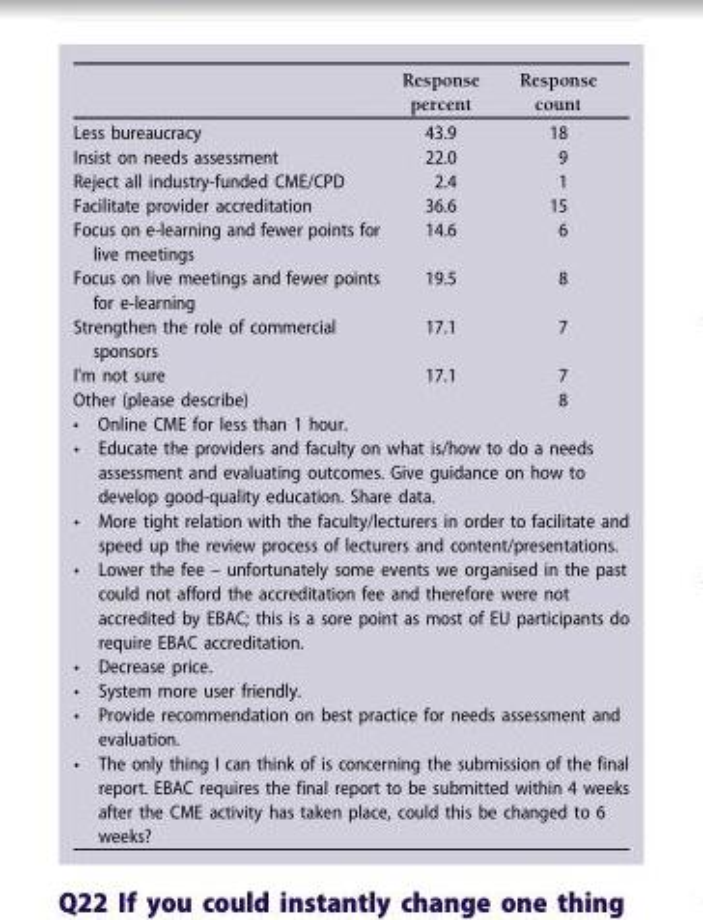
<table><thead><tr><td></td><td>Response percent</td><td>Response count</td></tr></thead><tbody><tr><td>Less bureaucracy</td><td>43.9</td><td>18</td></tr><tr><td>Insist on needs assessment</td><td>22.0</td><td>9</td></tr><tr><td>Reject all industry-funded CME/CPD</td><td>2.4</td><td>1</td></tr><tr><td>Facilitate provider accreditation</td><td>36.6</td><td>15</td></tr><tr><td>Focus on e-learning and fewer points for live meetings</td><td>14.6</td><td>6</td></tr><tr><td>Focus on live meetings and fewer points for e-learning</td><td>19.5</td><td>8</td></tr><tr><td>Strengthen the role of commercial sponsors</td><td>17.1</td><td>7</td></tr><tr><td>I&#x27;m not sure</td><td>17.1</td><td>7</td></tr><tr><td>Other (please describe)</td><td></td><td>8</td></tr><tr><td colspan="3">• Online CME for less than 1 hour. • Educate the providers and faculty on what is/how to do a needs assessment and evaluating outcomes. Give guidance on how to develop good-quality education. Share data. • More tight relation with the faculty/lecturers in order to facilitate and speed up the review process of lecturers and content/presentations. • Lower the fee – unfortunately some events we organised in the past could not afford the accreditation fee and therefore were not accredited by EBAC; this is a sore point as most of EU participants do require EBAC accreditation. • Decrease price. • System more user friendly. • Provide recommendation on best practice for needs assessment and evaluation. • The only thing I can think of is concerning the submission of the final report. EBAC requires the final report to be submitted within 4 weeks after the CME activity has taken place, could this be changed to 6 weeks?</td></tr></tbody></table>